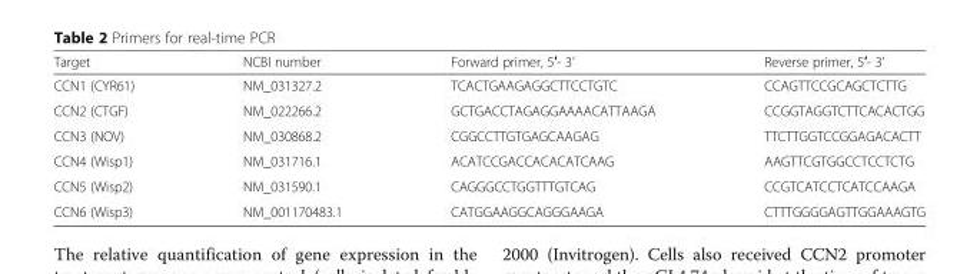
<table><thead><tr><td>Target</td><td>NCBI number</td><td>Forward primer, 5′- 3’</td><td>Reverse primer, 5′- 3’</td></tr></thead><tbody><tr><td>CCN1 (CYR61)</td><td>NM_031327.2</td><td>TCACTGAAGAGGCTTCCTGTC</td><td>CCAGTTCCGCAGCTCTTG</td></tr><tr><td>CCN2 (CTGF)</td><td>NM_022266.2</td><td>GCTGACCTAGAGGAAAACATTAAGA</td><td>CCGGTAGGTCTTCACACTGG</td></tr><tr><td>CCN3 (NOV)</td><td>NM_030868.2</td><td>CGGCCTTGTGAGCAAGAG</td><td>TTCTTGGTCCGGAGACACTT</td></tr><tr><td>CCN4 (Wisp1)</td><td>NM_031716.1</td><td>ACATCCGACCACACATCAAG</td><td>AAGTTCGTGGCCTCCTCTG</td></tr><tr><td>CCN5 (Wisp2)</td><td>NM_031590.1</td><td>CAGGGCCTGGTTTGTCAG</td><td>CCGTCATCCTCATCCAAGA</td></tr><tr><td>CCN6 (Wisp3)</td><td>NM_001170483.1</td><td>CATGGAAGGCAGGGAAGA</td><td>CTTTGGGGAGTTGGAAAGTG</td></tr></tbody></table>